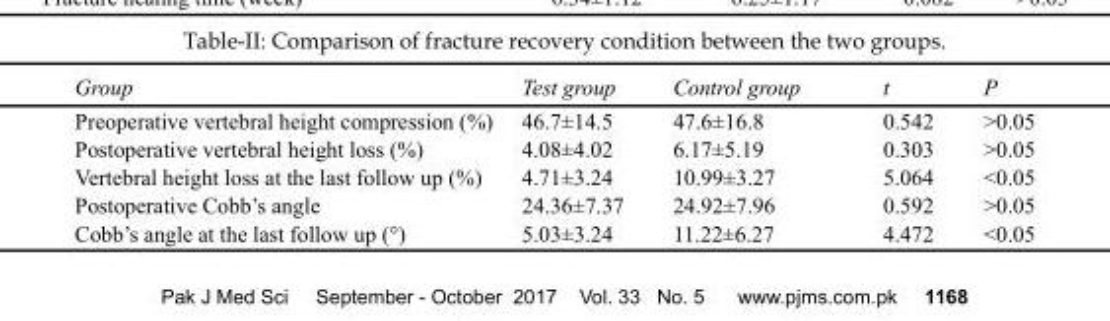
<table><thead><tr><td>Group</td><td>Test group</td><td>Control group</td><td>t</td><td>P</td></tr></thead><tbody><tr><td>Preoperative vertebral height compression (%)</td><td>46.7±14.5</td><td>47.6±16.8</td><td>0.542</td><td>&gt;0.05</td></tr><tr><td>Postoperative vertebral height loss (%)</td><td>4.08±4.02</td><td>6.17±5.19</td><td>0.303</td><td>&gt;0.05</td></tr><tr><td>Vertebral height loss at the last follow up (%)</td><td>4.71±3.24</td><td>10.99±3.27</td><td>5.064</td><td>&lt;0.05</td></tr><tr><td>Postoperative Cobb’s angle</td><td>24.36±7.37</td><td>24.92±7.96</td><td>0.592</td><td>&gt;0.05</td></tr><tr><td>Cobb’s angle at the last follow up (°)</td><td>5.03±3.24</td><td>11.22±6.27</td><td>4.472</td><td>&lt;0.05</td></tr></tbody></table>